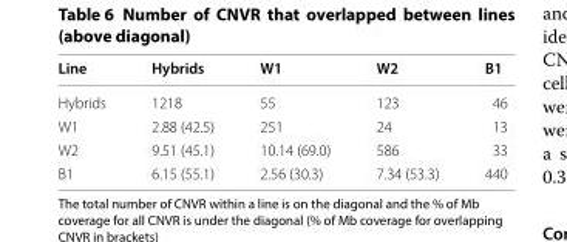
<table><thead><tr><td>Line</td><td>Hybrids</td><td>W1</td><td>W2</td><td>B1</td></tr></thead><tbody><tr><td>Hybrids</td><td>1218</td><td>55</td><td>123</td><td>46</td></tr><tr><td>W1</td><td>2.88 (42.5)</td><td>251</td><td>24</td><td>13</td></tr><tr><td>W2</td><td>9.51 (45.1)</td><td>10.14 (69.0)</td><td>586</td><td>33</td></tr><tr><td>B1</td><td>6.15 (55.1)</td><td>2.56 (30.3)</td><td>7.34 (53.3)</td><td>440</td></tr></tbody></table>